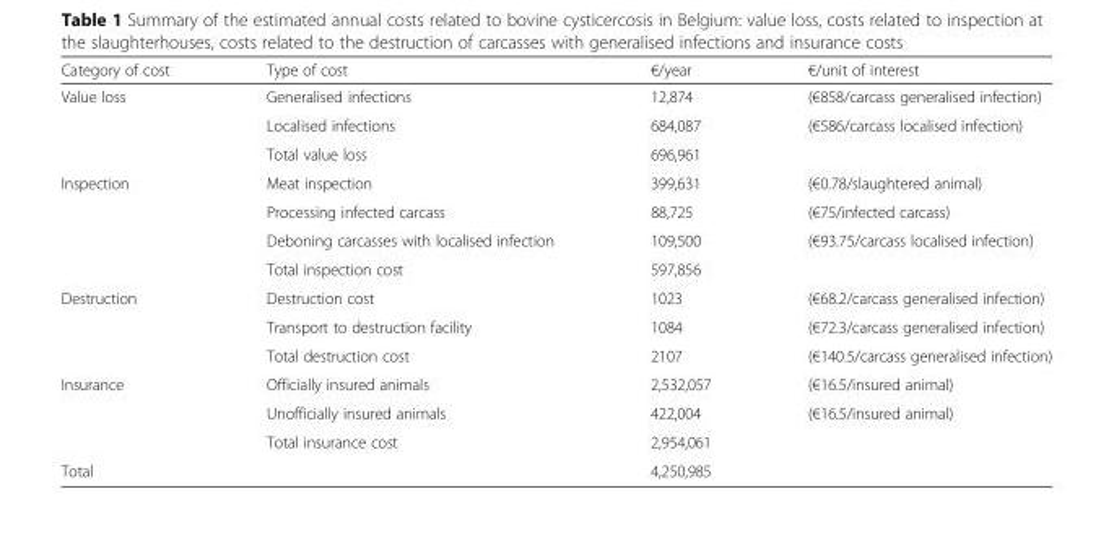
<table><thead><tr><td>Category of cost</td><td>Type of cost</td><td>€/year</td><td>€/unit of interest</td></tr></thead><tbody><tr><td rowspan="3">Value loss</td><td>Generalised infections</td><td>12,874</td><td>(€858/carcass generalised infection)</td></tr><tr><td>Localised infections</td><td>684,087</td><td>(€586/carcass localised infection)</td></tr><tr><td>Total value loss</td><td>696,961</td><td></td></tr><tr><td rowspan="4">Inspection</td><td>Meat inspection</td><td>399,631</td><td>(€0.78/slaughtered animal)</td></tr><tr><td>Processing infected carcass</td><td>88,725</td><td>(€75/infected carcass)</td></tr><tr><td>Deboning carcasses with localised infection</td><td>109,500</td><td>(€93.75/carcass localised infection)</td></tr><tr><td>Total inspection cost</td><td>597,856</td><td></td></tr><tr><td rowspan="3">Destruction</td><td>Destruction cost</td><td>1023</td><td>(€68.2/carcass generalised infection)</td></tr><tr><td>Transport to destruction facility</td><td>1084</td><td>(€72.3/carcass generalised infection)</td></tr><tr><td>Total destruction cost</td><td>2107</td><td>(€140.5/carcass generalised infection)</td></tr><tr><td rowspan="3">Insurance</td><td>Officially insured animals</td><td>2,532,057</td><td>(€16.5/insured animal)</td></tr><tr><td>Unofficially insured animals</td><td>422,004</td><td>(€16.5/insured animal)</td></tr><tr><td>Total insurance cost</td><td>2,954,061</td><td></td></tr><tr><td>Total</td><td></td><td>4,250,985</td><td></td></tr></tbody></table>